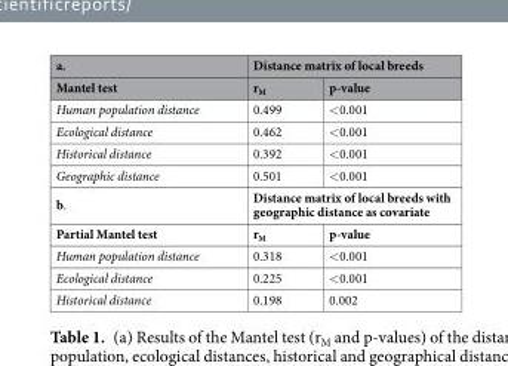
<table><thead><tr><td rowspan="2">a. Mantel test</td><td colspan="2">Distance matrix of local breeds</td></tr><tr><td>rM</td><td>p-value</td></tr></thead><tbody><tr><td>Human population distance</td><td>0.499</td><td>&lt;0.001</td></tr><tr><td>Ecological distance</td><td>0.462</td><td>&lt;0.001</td></tr><tr><td>Historical distance</td><td>0.392</td><td>&lt;0.001</td></tr><tr><td>Geographic distance</td><td>0.501</td><td>&lt;0.001</td></tr><tr><td>b.</td><td colspan="2">Distance matrix of local breeds with geographic distance as covariate</td></tr><tr><td>Partial Mantel test</td><td>r<sub>M</sub></td><td>p-value</td></tr><tr><td>Human population distance</td><td>0.318</td><td>&lt;0.001</td></tr><tr><td>Ecological distance</td><td>0.225</td><td>&lt;0.001</td></tr><tr><td>Historical distance</td><td>0.198</td><td>0.002</td></tr></tbody></table>